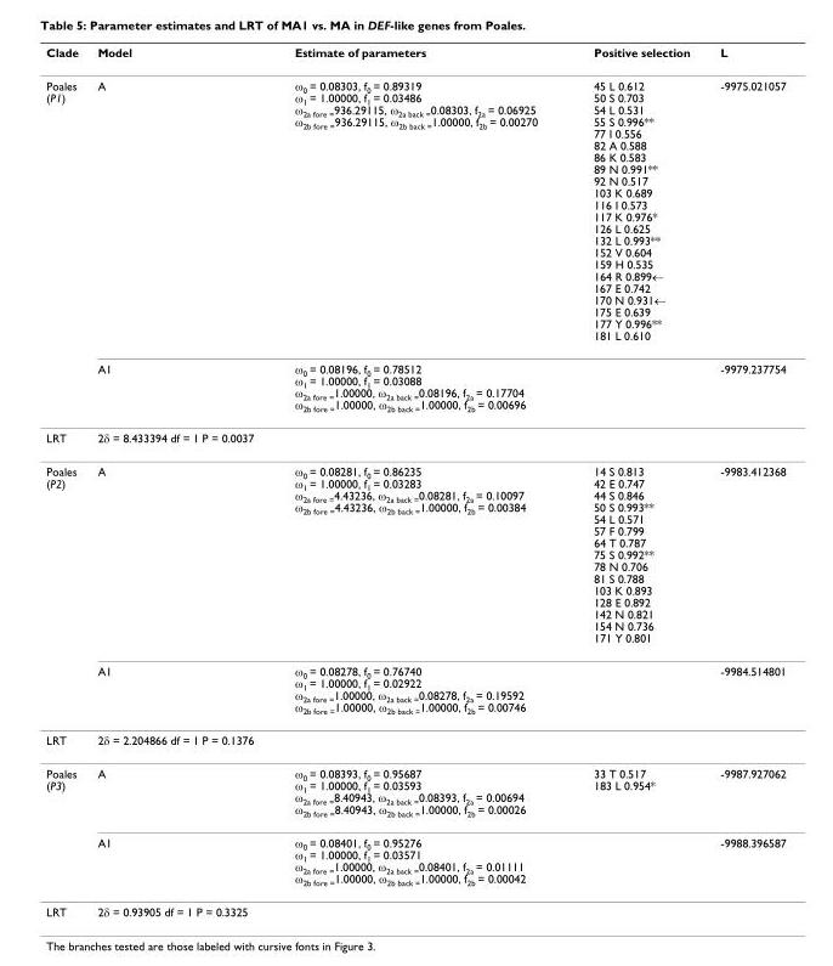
<table><thead><tr><td>Clade</td><td>Model</td><td>Estimate of parameters</td><td>Positive selection</td><td>L</td></tr></thead><tbody><tr><td rowspan="2">Poales (P1)</td><td>A</td><td>ω<sub>0</sub> = 0.08303, f<sub>0</sub> = 0.89319 ω<sub>1</sub> = 1.00000, f<sub>1</sub> = 0.03486 ω<sub>2a fore =</sub>936.29115, ω<sub>2a back =</sub>0.08303, f<sub>2a</sub> = 0.06925 ω<sub>2b fore =</sub>936.29115, ω<sub>2b back =</sub>1.00000, f<sub>2b</sub> = 0.00270</td><td>45 L 0.612 50 S 0.703 54 L 0.531 55 S 0.996** 77 I 0.556 82 A 0.588 86 K 0.583 89 N 0.991** 92 N 0.517 103 K 0.689 116 I 0.573 117 K 0.976* 126 L 0.625 132 L 0.993** 152 V 0.604 159 H 0.535 164 R 0.899← 167 E 0.742 170 N 0.931← 175 E 0.639 177 Y 0.996** 181 L 0.610</td><td>-9975.021057</td></tr><tr><td>A1</td><td>ω<sub>0</sub> = 0.08196, f<sub>0</sub> = 0.78512 ω<sub>1</sub> = 1.00000, f<sub>1</sub> = 0.03088 ω<sub>2a fore =</sub>1.00000, ω<sub>2a back =</sub>0.08196, f<sub>2a</sub> = 0.17704 ω<sub>2b fore =</sub>1.00000, ω<sub>2b back =</sub>1.00000, f<sub>2b</sub> = 0.00696</td><td></td><td>-9979.237754</td></tr><tr><td>LRT</td><td>2δ = 8.433394 df = 1 P = 0.0037</td><td></td><td></td><td></td></tr><tr><td rowspan="2">Poales (P2)</td><td>A</td><td>ω<sub>0</sub> = 0.08281, f<sub>0</sub> = 0.86235 ω<sub>1</sub> = 1.00000, f<sub>1</sub> = 0.03283 ω<sub>2a fore =</sub>4.43236, ω<sub>2a back =</sub>0.08281, f<sub>2a</sub> = 0.10097 ω<sub>2b fore =</sub>4.43236, ω<sub>2b back =</sub>1.00000, f<sub>2b</sub> = 0.00384</td><td>14 S 0.813 42 E 0.747 44 S 0.846 50 S 0.993** 54 L 0.571 57 F 0.799 64 T 0.787 75 S 0.992** 78 N 0.706 81 S 0.788 103 K 0.893 128 E 0.892 142 N 0.821 154 N 0.736 171 Y 0.801</td><td>-9983.412368</td></tr><tr><td>A1</td><td>ω<sub>0</sub> = 0.08278, f<sub>0</sub> = 0.76740 ω<sub>1</sub> = 1.00000, f<sub>1</sub> = 0.02922 ω<sub>2a fore =</sub>1.00000, ω<sub>2a back =</sub>0.08278, f<sub>2a</sub> = 0.19592 ω<sub>2b fore =</sub>1.00000, ω<sub>2b back =</sub>1.00000, f<sub>2b</sub> = 0.00746</td><td></td><td>-9984.514801</td></tr><tr><td>LRT</td><td>2δ = 2.204866 df = 1 P = 0.1376</td><td></td><td></td><td></td></tr><tr><td rowspan="2">Poales (P3)</td><td>A</td><td>ω<sub>0</sub> = 0.08393, f<sub>0</sub> = 0.95687 ω<sub>1</sub> = 1.00000, f<sub>1</sub> = 0.03593 ω<sub>2a fore =</sub>8.40943, ω<sub>2a back =</sub>0.08393, f<sub>2a</sub> = 0.00694 ω<sub>2b fore =</sub>8.40943, ω<sub>2b back =</sub>1.00000, f<sub>2b</sub> = 0.00026</td><td>33 T 0.517 183 L 0.954*</td><td>-9987.927062</td></tr><tr><td>A1</td><td>ω<sub>0</sub> = 0.08401, f<sub>0</sub> = 0.95276 ω<sub>1</sub> = 1.00000, f<sub>1</sub> = 0.03571 ω<sub>2a fore =</sub>1.00000, ω<sub>2a back =</sub>0.08401, f<sub>2a</sub> = 0.01111 ω<sub>2b fore =</sub>1.00000, ω<sub>2b back =</sub>1.00000, f<sub>2b</sub> = 0.00042</td><td></td><td>-9988.396587</td></tr><tr><td>LRT</td><td>2δ = 0.93905 df = 1 P = 0.3325</td><td></td><td></td><td></td></tr></tbody></table>